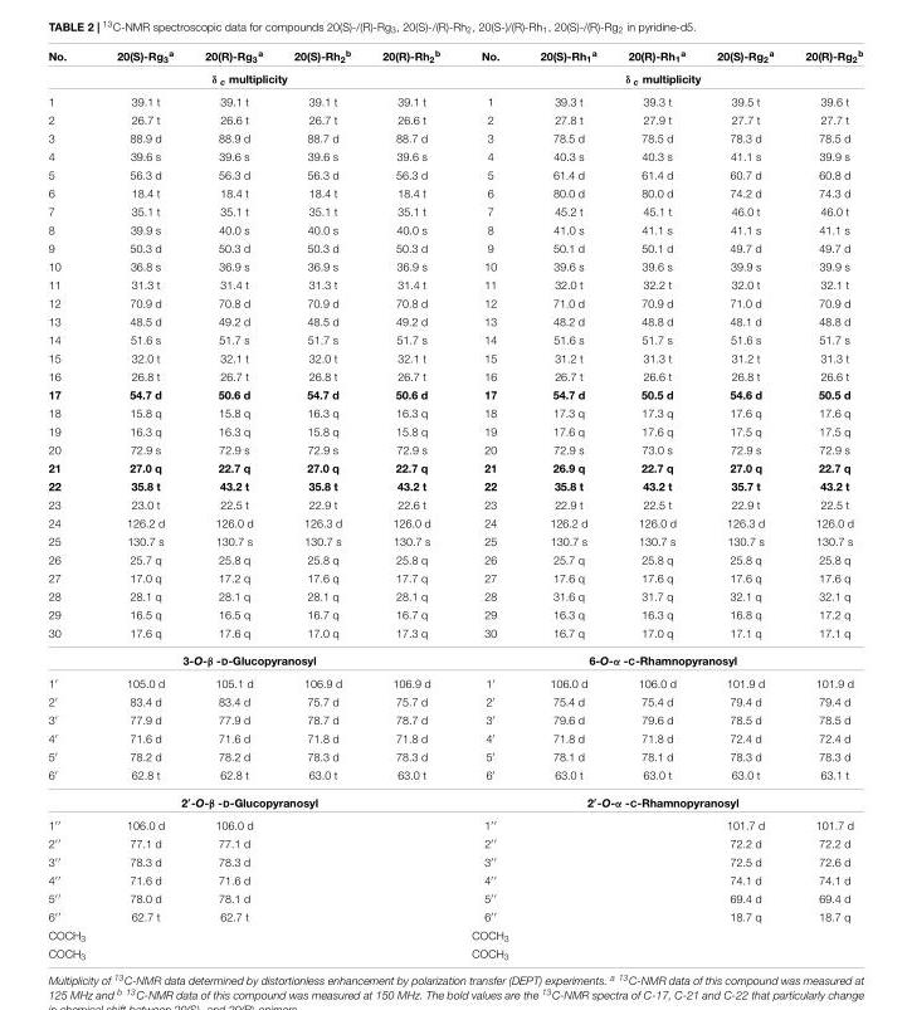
<table><thead><tr><td>No.</td><td>20(S)-Rg<sub>3</sub><sup>a</sup></td><td>20(R)-Rg<sub>3</sub><sup>a</sup></td><td>20(S)-Rh<sub>2</sub><sup>b</sup></td><td>20(R)-Rh<sub>2</sub><sup>b</sup></td><td>No.</td><td>20(S)-Rh<sub>1</sub><sup>a</sup></td><td>20(R)-Rh<sub>1</sub><sup>a</sup></td><td>20(S)-Rg<sub>2</sub><sup>a</sup></td><td>20(R)-Rg<sub>2</sub><sup>b</sup></td></tr><tr><td colspan="5">δ <sub>c</sub> multiplicity</td><td colspan="5">δ <sub>c</sub> multiplicity</td></tr></thead><tbody><tr><td>1</td><td>39.1 t</td><td>39.1 t</td><td>39.1 t</td><td>39.1 t</td><td>1</td><td>39.3 t</td><td>39.3 t</td><td>39.5 t</td><td>39.6 t</td></tr><tr><td>2</td><td>26.7 t</td><td>26.6 t</td><td>26.7 t</td><td>26.6 t</td><td>2</td><td>27.8 t</td><td>27.9 t</td><td>27.7 t</td><td>27.7 t</td></tr><tr><td>3</td><td>88.9 d</td><td>88.9 d</td><td>88.7 d</td><td>88.7 d</td><td>3</td><td>78.5 d</td><td>78.5 d</td><td>78.3 d</td><td>78.5 d</td></tr><tr><td>4</td><td>39.6 s</td><td>39.6 s</td><td>39.6 s</td><td>39.6 s</td><td>4</td><td>40.3 s</td><td>40.3 s</td><td>41.1 s</td><td>39.9 s</td></tr><tr><td>5</td><td>56.3 d</td><td>56.3 d</td><td>56.3 d</td><td>56.3 d</td><td>5</td><td>61.4 d</td><td>61.4 d</td><td>60.7 d</td><td>60.8 d</td></tr><tr><td>6</td><td>18.4 t</td><td>18.4 t</td><td>18.4 t</td><td>18.4 t</td><td>6</td><td>80.0 d</td><td>80.0 d</td><td>74.2 d</td><td>74.3 d</td></tr><tr><td>7</td><td>35.1 t</td><td>35.1 t</td><td>35.1 t</td><td>35.1 t</td><td>7</td><td>45.2 t</td><td>45.1 t</td><td>46.0 t</td><td>46.0 t</td></tr><tr><td>8</td><td>39.9 s</td><td>40.0 s</td><td>40.0 s</td><td>40.0 s</td><td>8</td><td>41.0 s</td><td>41.1 s</td><td>41.1 s</td><td>41.1 s</td></tr><tr><td>9</td><td>50.3 d</td><td>50.3 d</td><td>50.3 d</td><td>50.3 d</td><td>9</td><td>50.1 d</td><td>50.1 d</td><td>49.7 d</td><td>49.7 d</td></tr><tr><td>10</td><td>36.8 s</td><td>36.9 s</td><td>36.9 s</td><td>36.9 s</td><td>10</td><td>39.6 s</td><td>39.6 s</td><td>39.9 s</td><td>39.9 s</td></tr><tr><td>11</td><td>31.3 t</td><td>31.4 t</td><td>31.3 t</td><td>31.4 t</td><td>11</td><td>32.0 t</td><td>32.2 t</td><td>32.0 t</td><td>32.1 t</td></tr><tr><td>12</td><td>70.9 d</td><td>70.8 d</td><td>70.9 d</td><td>70.8 d</td><td>12</td><td>71.0 d</td><td>70.9 d</td><td>71.0 d</td><td>70.9 d</td></tr><tr><td>13</td><td>48.5 d</td><td>49.2 d</td><td>48.5 d</td><td>49.2 d</td><td>13</td><td>48.2 d</td><td>48.8 d</td><td>48.1 d</td><td>48.8 d</td></tr><tr><td>14</td><td>51.6 s</td><td>51.7 s</td><td>51.7 s</td><td>51.7 s</td><td>14</td><td>51.6 s</td><td>51.7 s</td><td>51.6 s</td><td>51.7 s</td></tr><tr><td>15</td><td>32.0 t</td><td>32.1 t</td><td>32.0 t</td><td>32.1 t</td><td>15</td><td>31.2 t</td><td>31.3 t</td><td>31.2 t</td><td>31.3 t</td></tr><tr><td>16</td><td>26.8 t</td><td>26.7 t</td><td>26.8 t</td><td>26.7 t</td><td>16</td><td>26.7 t</td><td>26.6 t</td><td>26.8 t</td><td>26.6 t</td></tr><tr><td>17</td><td>54.7 d</td><td>50.6 d</td><td>54.7 d</td><td>50.6 d</td><td>17</td><td>54.7 d</td><td>50.5 d</td><td>54.6 d</td><td>50.5 d</td></tr><tr><td>18</td><td>15.8 q</td><td>15.8 q</td><td>16.3 q</td><td>16.3 q</td><td>18</td><td>17.3 q</td><td>17.3 q</td><td>17.6 q</td><td>17.6 q</td></tr><tr><td>19</td><td>16.3 q</td><td>16.3 q</td><td>15.8 q</td><td>15.8 q</td><td>19</td><td>17.6 q</td><td>17.6 q</td><td>17.5 q</td><td>17.5 q</td></tr><tr><td>20</td><td>72.9 s</td><td>72.9 s</td><td>72.9 s</td><td>72.9 s</td><td>20</td><td>72.9 s</td><td>73.0 s</td><td>72.9 s</td><td>72.9 s</td></tr><tr><td>21</td><td>27.0 q</td><td>22.7 q</td><td>27.0 q</td><td>22.7 q</td><td>21</td><td>26.9 q</td><td>22.7 q</td><td>27.0 q</td><td>22.7 q</td></tr><tr><td>22</td><td>35.8 t</td><td>43.2 t</td><td>35.8 t</td><td>43.2 t</td><td>22</td><td>35.8 t</td><td>43.2 t</td><td>35.7 t</td><td>43.2 t</td></tr><tr><td>23</td><td>23.0 t</td><td>22.5 t</td><td>22.9 t</td><td>22.6 t</td><td>23</td><td>22.9 t</td><td>22.5 t</td><td>22.9 t</td><td>22.5 t</td></tr><tr><td>24</td><td>126.2 d</td><td>126.0 d</td><td>126.3 d</td><td>126.0 d</td><td>24</td><td>126.2 d</td><td>126.0 d</td><td>126.3 d</td><td>126.0 d</td></tr><tr><td>25</td><td>130.7 s</td><td>130.7 s</td><td>130.7 s</td><td>130.7 s</td><td>25</td><td>130.7 s</td><td>130.7 s</td><td>130.7 s</td><td>130.7 s</td></tr><tr><td>26</td><td>25.7 q</td><td>25.8 q</td><td>25.8 q</td><td>25.8 q</td><td>26</td><td>25.7 q</td><td>25.8 q</td><td>25.8 q</td><td>25.8 q</td></tr><tr><td>27</td><td>17.0 q</td><td>17.2 q</td><td>17.6 q</td><td>17.7 q</td><td>27</td><td>17.6 q</td><td>17.6 q</td><td>17.6 q</td><td>17.6 q</td></tr><tr><td>28</td><td>28.1 q</td><td>28.1 q</td><td>28.1 q</td><td>28.1 q</td><td>28</td><td>31.6 q</td><td>31.7 q</td><td>32.1 q</td><td>32.1 q</td></tr><tr><td>29</td><td>16.5 q</td><td>16.5 q</td><td>16.7 q</td><td>16.7 q</td><td>29</td><td>16.3 q</td><td>16.3 q</td><td>16.8 q</td><td>17.2 q</td></tr><tr><td>30</td><td>17.6 q</td><td>17.6 q</td><td>17.0 q</td><td>17.3 q</td><td>30</td><td>16.7 q</td><td>17.0 q</td><td>17.1 q</td><td>17.1 q</td></tr><tr><td colspan="5">3-O-β -D-Glucopyranosyl</td><td colspan="5">6-O-α -C-Rhamnopyranosyl</td></tr><tr><td>1′</td><td>105.0 d</td><td>105.1 d</td><td>106.9 d</td><td>106.9 d</td><td>1′</td><td>106.0 d</td><td>106.0 d</td><td>101.9 d</td><td>101.9 d</td></tr><tr><td>2′</td><td>83.4 d</td><td>83.4 d</td><td>75.7 d</td><td>75.7 d</td><td>2′</td><td>75.4 d</td><td>75.4 d</td><td>79.4 d</td><td>79.4 d</td></tr><tr><td>3′</td><td>77.9 d</td><td>77.9 d</td><td>78.7 d</td><td>78.7 d</td><td>3′</td><td>79.6 d</td><td>79.6 d</td><td>78.5 d</td><td>78.5 d</td></tr><tr><td>4′</td><td>71.6 d</td><td>71.6 d</td><td>71.8 d</td><td>71.8 d</td><td>4′</td><td>71.8 d</td><td>71.8 d</td><td>72.4 d</td><td>72.4 d</td></tr><tr><td>5′</td><td>78.2 d</td><td>78.2 d</td><td>78.3 d</td><td>78.3 d</td><td>5′</td><td>78.1 d</td><td>78.1 d</td><td>78.3 d</td><td>78.3 d</td></tr><tr><td>6′</td><td>62.8 t</td><td>62.8 t</td><td>63.0 t</td><td>63.0 t</td><td>6′</td><td>63.0 t</td><td>63.0 t</td><td>63.0 t</td><td>63.1 t</td></tr><tr><td colspan="5">2′-O-β -D-Glucopyranosyl</td><td colspan="5">2′-O-α -C-Rhamnopyranosyl</td></tr><tr><td>1′′</td><td>106.0 d</td><td>106.0 d</td><td></td><td></td><td>1′′</td><td></td><td></td><td>101.7 d</td><td>101.7 d</td></tr><tr><td>2′′</td><td>77.1 d</td><td>77.1 d</td><td></td><td></td><td>2′′</td><td></td><td></td><td>72.2 d</td><td>72.2 d</td></tr><tr><td>3′′</td><td>78.3 d</td><td>78.3 d</td><td></td><td></td><td>3′′</td><td></td><td></td><td>72.5 d</td><td>72.6 d</td></tr><tr><td>4′′</td><td>71.6 d</td><td>71.6 d</td><td></td><td></td><td>4′′</td><td></td><td></td><td>74.1 d</td><td>74.1 d</td></tr><tr><td>5′′</td><td>78.0 d</td><td>78.1 d</td><td></td><td></td><td>5′′</td><td></td><td></td><td>69.4 d</td><td>69.4 d</td></tr><tr><td>6′′</td><td>62.7 t</td><td>62.7 t</td><td></td><td></td><td>6′′</td><td></td><td></td><td>18.7 q</td><td>18.7 q</td></tr><tr><td>COCH<sub>3</sub></td><td></td><td></td><td></td><td></td><td>COCH<sub>3</sub></td><td></td><td></td><td></td><td></td></tr><tr><td>COCH<sub>3</sub></td><td></td><td></td><td></td><td></td><td>COCH<sub>3</sub></td><td></td><td></td><td></td><td></td></tr></tbody></table>